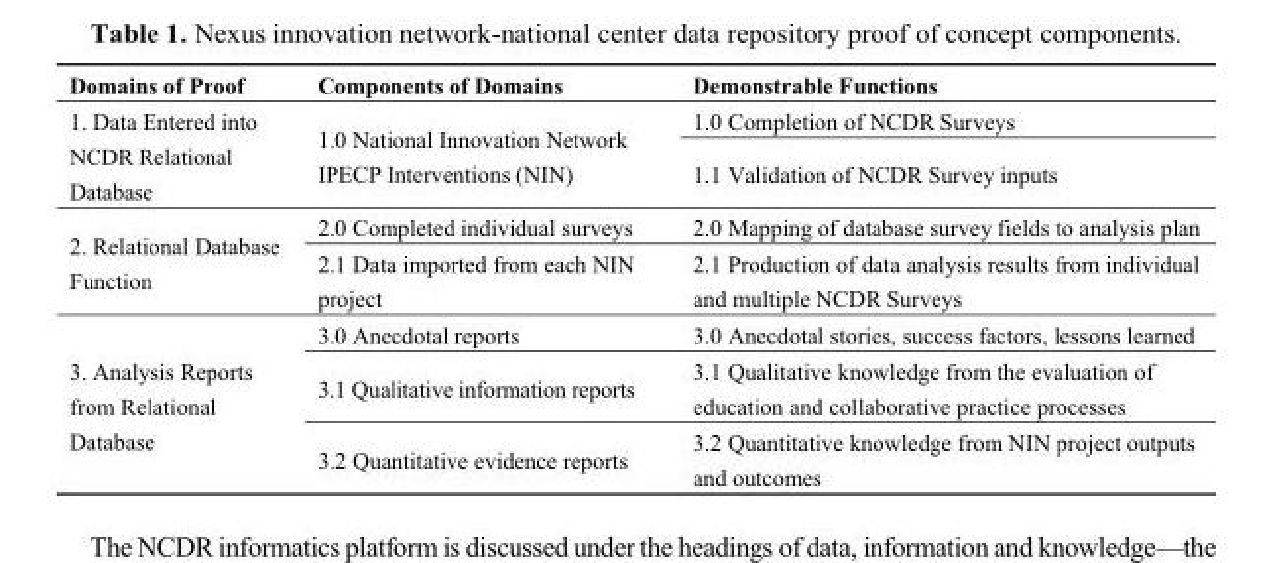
<table><thead><tr><td>Domains of Proof</td><td>Components of Domains</td><td>Demonstrable Functions</td></tr></thead><tbody><tr><td rowspan="2">1. Data Entered into NCDR Relational Database</td><td rowspan="2">1.0 National Innovation Network IPECP Interventions (NIN)</td><td>1.0 Completion of NCDR Surveys</td></tr><tr><td>1.1 Validation of NCDR Survey inputs</td></tr><tr><td rowspan="2">2. Relational Database Function</td><td>2.0 Completed individual surveys</td><td>2.0 Mapping of database survey fields to analysis plan</td></tr><tr><td>2.1 Data imported from each NIN project</td><td>2.1 Production of data analysis results from individual and multiple NCDR Surveys</td></tr><tr><td rowspan="3">3. Analysis Reports from Relational Database</td><td>3.0 Anecdotal reports</td><td>3.0 Anecdotal stories, success factors, lessons learned</td></tr><tr><td>3.1 Qualitative information reports</td><td>3.1 Qualitative knowledge from the evaluation of education and collaborative practice processes</td></tr><tr><td>3.2 Quantitative evidence reports</td><td>3.2 Quantitative knowledge from NIN project outputs and outcomes</td></tr></tbody></table>